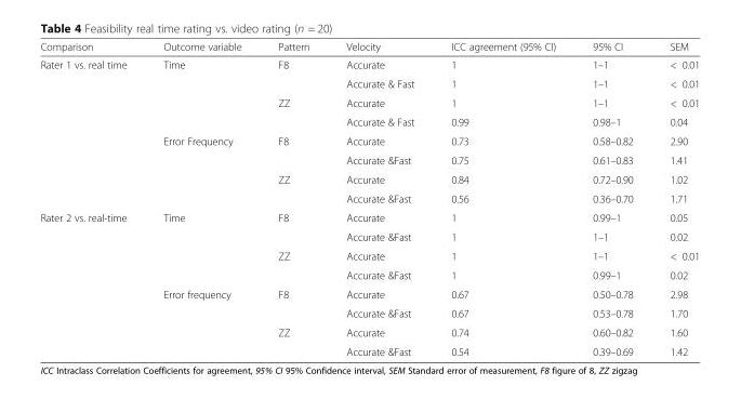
<table><thead><tr><td>Comparison</td><td>Outcome variable</td><td>Pattern</td><td>Velocity</td><td>ICC agreement (95% CI)</td><td>95% CI</td><td>SEM</td></tr></thead><tbody><tr><td rowspan="8">Rater 1 vs. real time</td><td rowspan="4">Time</td><td rowspan="2">F8</td><td>Accurate</td><td>1</td><td>1–1</td><td>&lt; 0.01</td></tr><tr><td>Accurate &amp; Fast</td><td>1</td><td>1–1</td><td>&lt; 0.01</td></tr><tr><td rowspan="2">ZZ</td><td>Accurate</td><td>1</td><td>1–1</td><td>&lt; 0.01</td></tr><tr><td>Accurate &amp; Fast</td><td>0.99</td><td>0.98–1</td><td>0.04</td></tr><tr><td rowspan="4">Error Frequency</td><td rowspan="2">F8</td><td>Accurate</td><td>0.73</td><td>0.58–0.82</td><td>2.90</td></tr><tr><td>Accurate &amp;Fast</td><td>0.75</td><td>0.61–0.83</td><td>1.41</td></tr><tr><td rowspan="2">ZZ</td><td>Accurate</td><td>0.84</td><td>0.72–0.90</td><td>1.02</td></tr><tr><td>Accurate &amp;Fast</td><td>0.56</td><td>0.36–0.70</td><td>1.71</td></tr><tr><td rowspan="8">Rater 2 vs. real-time</td><td rowspan="4">Time</td><td rowspan="2">F8</td><td>Accurate</td><td>1</td><td>0.99–1</td><td>0.05</td></tr><tr><td>Accurate &amp;Fast</td><td>1</td><td>1–1</td><td>0.02</td></tr><tr><td rowspan="2">ZZ</td><td>Accurate</td><td>1</td><td>1–1</td><td>&lt; 0.01</td></tr><tr><td>Accurate &amp;Fast</td><td>1</td><td>0.99–1</td><td>0.02</td></tr><tr><td rowspan="4">Error frequency</td><td rowspan="2">F8</td><td>Accurate</td><td>0.67</td><td>0.50–0.78</td><td>2.98</td></tr><tr><td>Accurate &amp;Fast</td><td>0.67</td><td>0.53–0.78</td><td>1.70</td></tr><tr><td rowspan="2">ZZ</td><td>Accurate</td><td>0.74</td><td>0.60–0.82</td><td>1.60</td></tr><tr><td>Accurate &amp;Fast</td><td>0.54</td><td>0.39–0.69</td><td>1.42</td></tr></tbody></table>